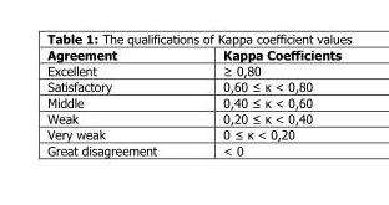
<table><thead><tr><td>Agreement</td><td>Kappa Coefficients</td></tr></thead><tbody><tr><td>Excellent</td><td>≥ 0,80</td></tr><tr><td>Satisfactory</td><td>0,60 ≤ κ &lt; 0,80</td></tr><tr><td>Middle</td><td>0,40 ≤ κ &lt; 0,60</td></tr><tr><td>Weak</td><td>0,20 ≤ κ &lt; 0,40</td></tr><tr><td>Very weak</td><td>0 ≤ κ &lt; 0,20</td></tr><tr><td>Great disagreement</td><td>&lt; 0</td></tr></tbody></table>